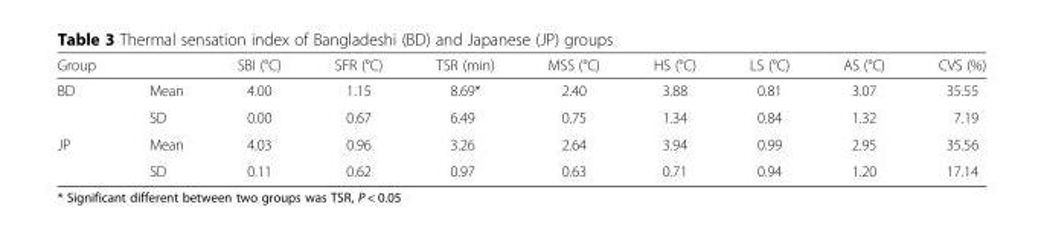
<table><thead><tr><td>Group</td><td></td><td>SBI (°C)</td><td>SFR (°C)</td><td>TSR (min)</td><td>MSS (°C)</td><td>HS (°C)</td><td>LS (°C)</td><td>AS (°C)</td><td>CVS (%)</td></tr></thead><tbody><tr><td rowspan="2">BD</td><td>Mean</td><td>4.00</td><td>1.15</td><td>8.69*</td><td>2.40</td><td>3.88</td><td>0.81</td><td>3.07</td><td>35.55</td></tr><tr><td>SD</td><td>0.00</td><td>0.67</td><td>6.49</td><td>0.75</td><td>1.34</td><td>0.84</td><td>1.32</td><td>7.19</td></tr><tr><td rowspan="2">JP</td><td>Mean</td><td>4.03</td><td>0.96</td><td>3.26</td><td>2.64</td><td>3.94</td><td>0.99</td><td>2.95</td><td>35.56</td></tr><tr><td>SD</td><td>0.11</td><td>0.62</td><td>0.97</td><td>0.63</td><td>0.71</td><td>0.94</td><td>1.20</td><td>17.14</td></tr></tbody></table>